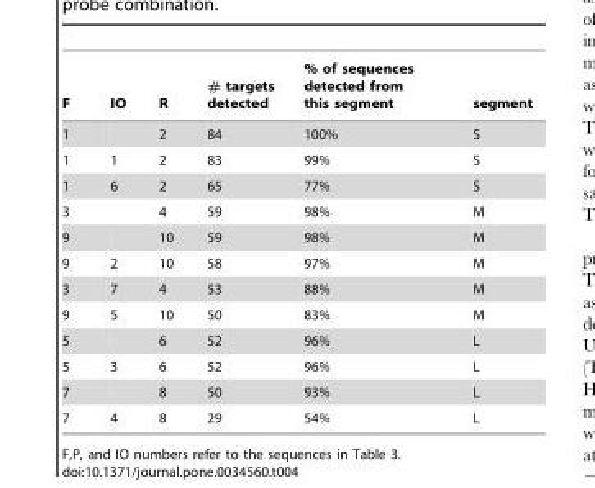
<table><thead><tr><td>F</td><td>IO</td><td>R</td><td># targets detected</td><td>% of sequences detected from this segment</td><td>segment</td></tr></thead><tbody><tr><td>1</td><td></td><td>2</td><td>84</td><td>100%</td><td>S</td></tr><tr><td>1</td><td>1</td><td>2</td><td>83</td><td>99%</td><td>S</td></tr><tr><td>1</td><td>6</td><td>2</td><td>65</td><td>77%</td><td>S</td></tr><tr><td>3</td><td></td><td>4</td><td>59</td><td>98%</td><td>M</td></tr><tr><td>9</td><td></td><td>10</td><td>59</td><td>98%</td><td>M</td></tr><tr><td>9</td><td>2</td><td>10</td><td>58</td><td>97%</td><td>M</td></tr><tr><td>3</td><td>7</td><td>4</td><td>53</td><td>88%</td><td>M</td></tr><tr><td>9</td><td>5</td><td>10</td><td>50</td><td>83%</td><td>M</td></tr><tr><td>5</td><td></td><td>6</td><td>52</td><td>96%</td><td>L</td></tr><tr><td>5</td><td>3</td><td>6</td><td>52</td><td>96%</td><td>L</td></tr><tr><td>7</td><td></td><td>8</td><td>50</td><td>93%</td><td>L</td></tr><tr><td>7</td><td>4</td><td>8</td><td>29</td><td>54%</td><td>L</td></tr></tbody></table>